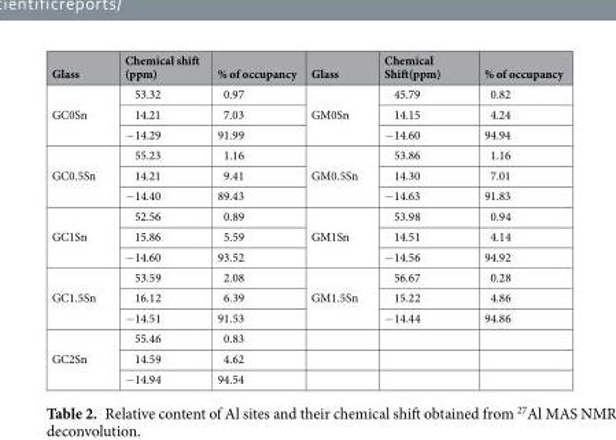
<table><thead><tr><td>Glass</td><td>Chemical shift (ppm)</td><td>% of occupancy</td><td>Glass</td><td>Chemical Shift(ppm)</td><td>% of occupancy</td></tr></thead><tbody><tr><td rowspan="3">GC0Sn</td><td>53.32</td><td>0.97</td><td rowspan="3">GM0Sn</td><td>45.79</td><td>0.82</td></tr><tr><td>14.21</td><td>7.03</td><td>14.15</td><td>4.24</td></tr><tr><td>−14.29</td><td>91.99</td><td>−14.60</td><td>94.94</td></tr><tr><td rowspan="3">GC0.5Sn</td><td>55.23</td><td>1.16</td><td rowspan="3">GM0.5Sn</td><td>53.86</td><td>1.16</td></tr><tr><td>14.21</td><td>9.41</td><td>14.30</td><td>7.01</td></tr><tr><td>−14.40</td><td>89.43</td><td>−14.63</td><td>91.83</td></tr><tr><td rowspan="3">GC1Sn</td><td>52.56</td><td>0.89</td><td rowspan="3">GM1Sn</td><td>53.98</td><td>0.94</td></tr><tr><td>15.86</td><td>5.59</td><td>14.51</td><td>4.14</td></tr><tr><td>−14.60</td><td>93.52</td><td>−14.56</td><td>94.92</td></tr><tr><td rowspan="3">GC1.5Sn</td><td>53.59</td><td>2.08</td><td rowspan="3">GM1.5Sn</td><td>56.67</td><td>0.28</td></tr><tr><td>16.12</td><td>6.39</td><td>15.22</td><td>4.86</td></tr><tr><td>−14.51</td><td>91.53</td><td>−14.44</td><td>94.86</td></tr><tr><td rowspan="3">GC2Sn</td><td>55.46</td><td>0.83</td><td></td><td></td><td></td></tr><tr><td>14.59</td><td>4.62</td><td></td><td></td><td></td></tr><tr><td>−14.94</td><td>94.54</td><td></td><td></td><td></td></tr></tbody></table>